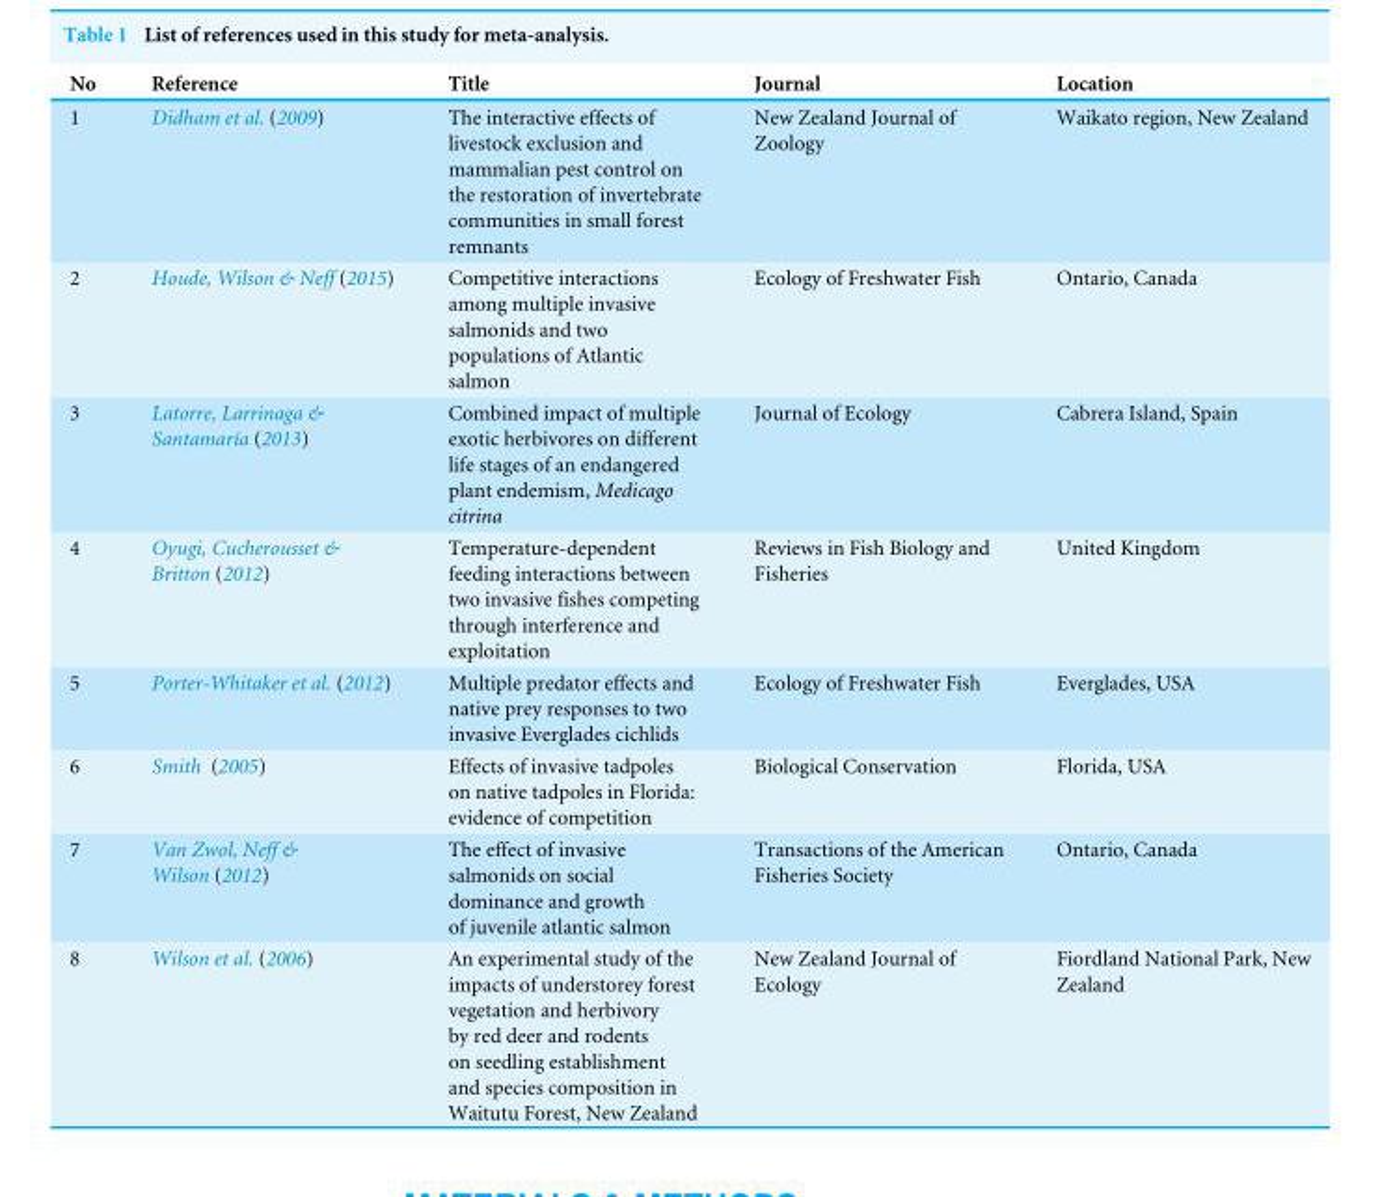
<table><thead><tr><td>No</td><td>Reference</td><td>Title</td><td>Journal</td><td>Location</td></tr></thead><tbody><tr><td>1</td><td>Didham et al. (2009)</td><td>The interactive effects of livestock exclusion and mammalian pest control on the restoration of invertebrate communities in small forest remnants</td><td>New Zealand Journal of Zoology</td><td>Waikato region, New Zealand</td></tr><tr><td>2</td><td>Houde, Wilson &amp; Neff (2015)</td><td>Competitive interactions among multiple invasive salmonids and two populations of Atlantic salmon</td><td>Ecology of Freshwater Fish</td><td>Ontario, Canada</td></tr><tr><td>3</td><td>Latorre, Larrinaga &amp; Santamaría (2013)</td><td>Combined impact of multiple exotic herbivores on different life stages of an endangered plant endemism, Medicago citrina</td><td>Journal of Ecology</td><td>Cabrera Island, Spain</td></tr><tr><td>4</td><td>Oyugi, Cucherousset &amp; Britton (2012)</td><td>Temperature-dependent feeding interactions between two invasive fishes competing through interference and exploitation</td><td>Reviews in Fish Biology and Fisheries</td><td>United Kingdom</td></tr><tr><td>5</td><td>Porter-Whitaker et al. (2012)</td><td>Multiple predator effects and native prey responses to two invasive Everglades cichlids</td><td>Ecology of Freshwater Fish</td><td>Everglades, USA</td></tr><tr><td>6</td><td>Smith (2005)</td><td>Effects of invasive tadpoles on native tadpoles in Florida: evidence of competition</td><td>Biological Conservation</td><td>Florida, USA</td></tr><tr><td>7</td><td>Van Zwol, Neff &amp; Wilson (2012)</td><td>The effect of invasive salmonids on social dominance and growth of juvenile atlantic salmon</td><td>Transactions of the American Fisheries Society</td><td>Ontario, Canada</td></tr><tr><td>8</td><td>Wilson et al. (2006)</td><td>An experimental study of the impacts of understorey forest vegetation and herbivory by red deer and rodents on seedling establishment and species composition in Waitutu Forest, New Zealand</td><td>New Zealand Journal of Ecology</td><td>Fiordland National Park, New Zealand</td></tr></tbody></table>